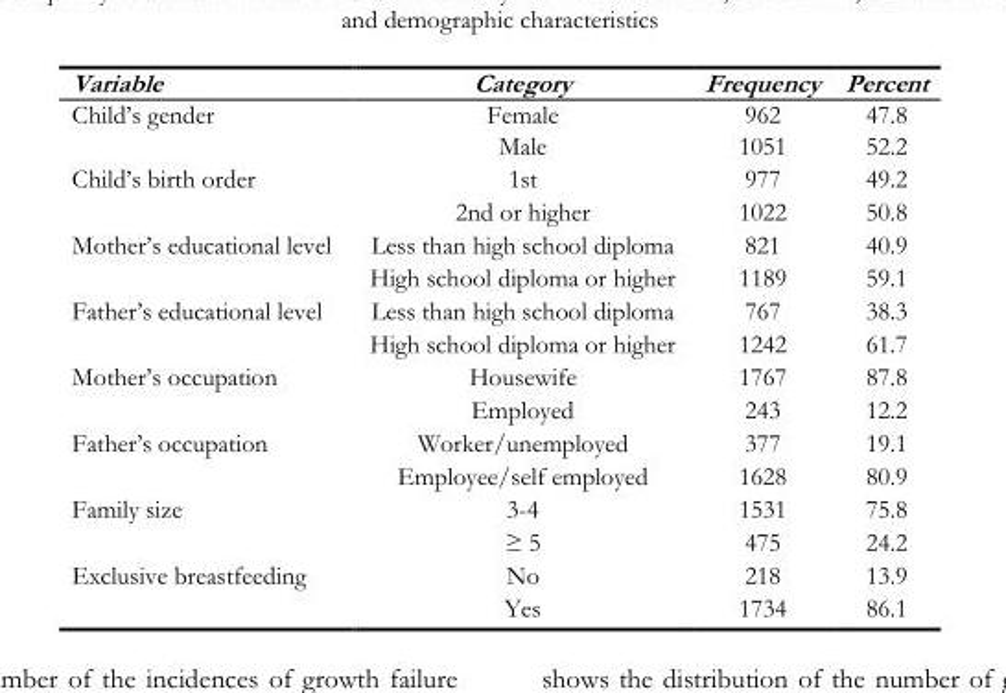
<table><thead><tr><td>Variable</td><td>Category</td><td>Frequency</td><td>Percent</td></tr></thead><tbody><tr><td rowspan="2">Child’s gender</td><td>Female</td><td>962</td><td>47.8</td></tr><tr><td>Male</td><td>1051</td><td>52.2</td></tr><tr><td rowspan="2">Child’s birth order</td><td>1st</td><td>977</td><td>49.2</td></tr><tr><td>2nd or higher</td><td>1022</td><td>50.8</td></tr><tr><td rowspan="2">Mother’s educational level</td><td>Less than high school diploma</td><td>821</td><td>40.9</td></tr><tr><td>High school diploma or higher</td><td>1189</td><td>59.1</td></tr><tr><td rowspan="2">Father’s educational level</td><td>Less than high school diploma</td><td>767</td><td>38.3</td></tr><tr><td>High school diploma or higher</td><td>1242</td><td>61.7</td></tr><tr><td rowspan="2">Mother’s occupation</td><td>Housewife</td><td>1767</td><td>87.8</td></tr><tr><td>Employed</td><td>243</td><td>12.2</td></tr><tr><td rowspan="2">Father’s occupation</td><td>Worker/unemployed</td><td>377</td><td>19.1</td></tr><tr><td>Employee/self employed</td><td>1628</td><td>80.9</td></tr><tr><td rowspan="2">Family size</td><td>3-4</td><td>1531</td><td>75.8</td></tr><tr><td>≥ 5</td><td>475</td><td>24.2</td></tr><tr><td rowspan="2">Exclusive breastfeeding</td><td>No</td><td>218</td><td>13.9</td></tr><tr><td>Yes</td><td>1734</td><td>86.1</td></tr></tbody></table>